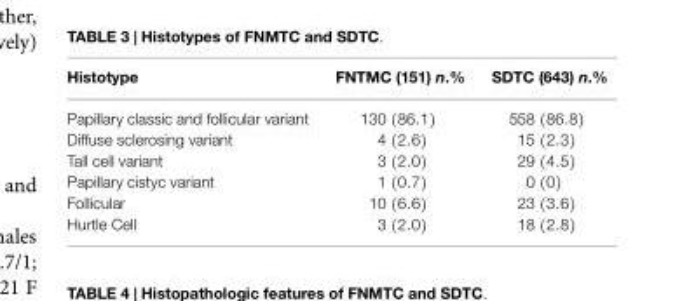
<table><thead><tr><td>Histotype</td><td>FNTMC (151) n.%</td><td>SDTC (643) n.%</td></tr></thead><tbody><tr><td>Papillary classic and follicular variant</td><td>130 (86.1)</td><td>558 (86.8)</td></tr><tr><td>Diffuse sclerosing variant</td><td>4 (2.6)</td><td>15 (2.3)</td></tr><tr><td>Tall cell variant</td><td>3 (2.0)</td><td>29 (4.5)</td></tr><tr><td>Papillary cistyc variant</td><td>1 (0.7)</td><td>0 (0)</td></tr><tr><td>Follicular</td><td>10 (6.6)</td><td>23 (3.6)</td></tr><tr><td>Hurtle Cell</td><td>3 (2.0)</td><td>18 (2.8)</td></tr></tbody></table>